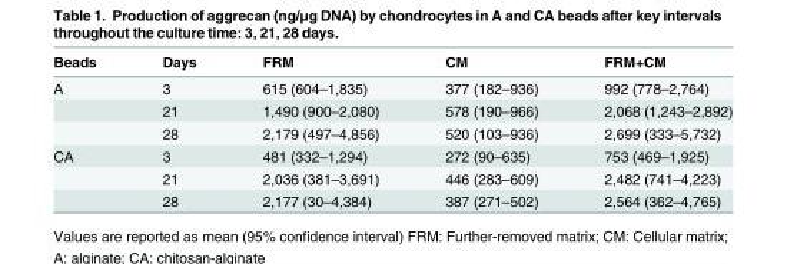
<table><thead><tr><td>Beads</td><td>Days</td><td>FRM</td><td>CM</td><td>FRM+CM</td></tr></thead><tbody><tr><td rowspan="3">A</td><td>3</td><td>615 (604–1,835)</td><td>377 (182–936)</td><td>992 (778–2,764)</td></tr><tr><td>21</td><td>1,490 (900–2,080)</td><td>578 (190–966)</td><td>2,068 (1,243–2,892)</td></tr><tr><td>28</td><td>2,179 (497–4,856)</td><td>520 (103–936)</td><td>2,699 (333–5,732)</td></tr><tr><td rowspan="3">CA</td><td>3</td><td>481 (332–1,294)</td><td>272 (90–635)</td><td>753 (469–1,925)</td></tr><tr><td>21</td><td>2,036 (381–3,691)</td><td>446 (283–609)</td><td>2,482 (741–4,223)</td></tr><tr><td>28</td><td>2,177 (30–4,384)</td><td>387 (271–502)</td><td>2,564 (362–4,765)</td></tr></tbody></table>